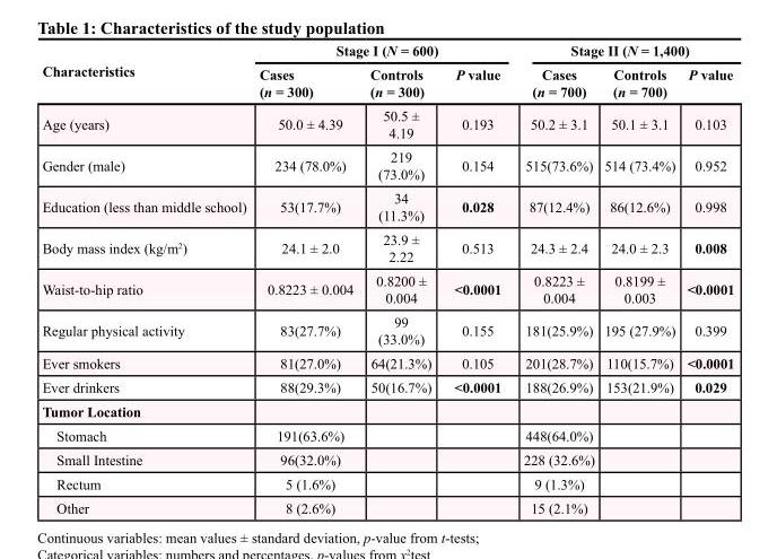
<table><thead><tr><td rowspan="2">Characteristics</td><td colspan="3">Stage I (N = 600)</td><td colspan="3">Stage II (N = 1,400)</td></tr><tr><td>Cases (n = 300)</td><td>Controls (n = 300)</td><td>P value</td><td>Cases (n = 700)</td><td>Controls (n = 700)</td><td>P value</td></tr></thead><tbody><tr><td>Age (years)</td><td>50.0 ± 4.39</td><td>50.5 ± 4.19</td><td>0.193</td><td>50.2 ± 3.1</td><td>50.1 ± 3.1</td><td>0.103</td></tr><tr><td>Gender (male)</td><td>234 (78.0%)</td><td>219 (73.0%)</td><td>0.154</td><td>515(73.6%)</td><td>514 (73.4%)</td><td>0.952</td></tr><tr><td>Education (less than middle school)</td><td>53(17.7%)</td><td>34 (11.3%)</td><td>0.028</td><td>87(12.4%)</td><td>86(12.6%)</td><td>0.998</td></tr><tr><td>Body mass index (kg/m<sup>2</sup>)</td><td>24.1 ± 2.0</td><td>23.9 ± 2.22</td><td>0.513</td><td>24.3 ± 2.4</td><td>24.0 ± 2.3</td><td>0.008</td></tr><tr><td>Waist-to-hip ratio</td><td>0.8223 ± 0.004</td><td>0.8200 ± 0.004</td><td>&lt;0.0001</td><td>0.8223 ± 0.004</td><td>0.8199 ± 0.003</td><td>&lt;0.0001</td></tr><tr><td>Regular physical activity</td><td>83(27.7%)</td><td>99 (33.0%)</td><td>0.155</td><td>181(25.9%)</td><td>195 (27.9%)</td><td>0.399</td></tr><tr><td>Ever smokers</td><td>81(27.0%)</td><td>64(21.3%)</td><td>0.105</td><td>201(28.7%)</td><td>110(15.7%)</td><td>&lt;0.0001</td></tr><tr><td>Ever drinkers</td><td>88(29.3%)</td><td>50(16.7%)</td><td>&lt;0.0001</td><td>188(26.9%)</td><td>153(21.9%)</td><td>0.029</td></tr><tr><td colspan="7">Tumor Location</td></tr><tr><td>Stomach</td><td>191(63.6%)</td><td></td><td></td><td>448(64.0%)</td><td></td><td></td></tr><tr><td>Small Intestine</td><td>96(32.0%)</td><td></td><td></td><td>228 (32.6%)</td><td></td><td></td></tr><tr><td>Rectum</td><td>5 (1.6%)</td><td></td><td></td><td>9 (1.3%)</td><td></td><td></td></tr><tr><td>Other</td><td>8 (2.6%)</td><td></td><td></td><td>15 (2.1%)</td><td></td><td></td></tr></tbody></table>